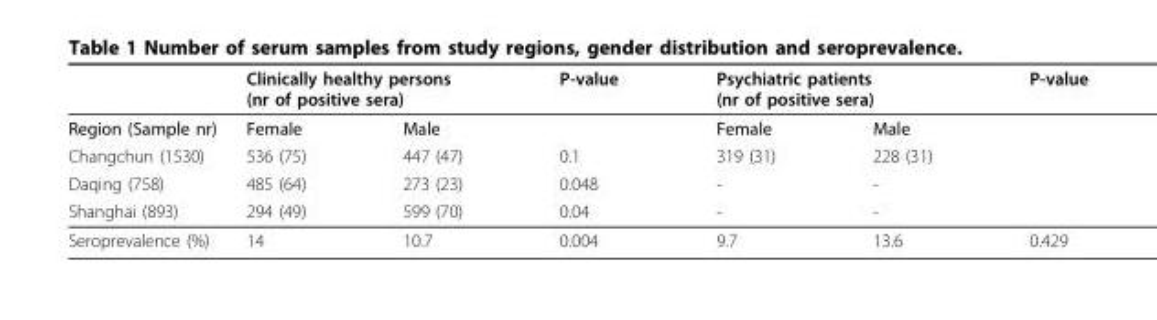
<table><thead><tr><td rowspan="2">Region (Sample nr)</td><td colspan="2">Clinically healthy persons (nr of positive sera)</td><td rowspan="2">P-value</td><td colspan="2">Psychiatric patients (nr of positive sera)</td><td rowspan="2">P-value</td></tr><tr><td>Female</td><td>Male</td><td>Female</td><td>Male</td></tr></thead><tbody><tr><td>Changchun (1530)</td><td>536 (75)</td><td>447 (47)</td><td>0.1</td><td>319 (31)</td><td>228 (31)</td><td></td></tr><tr><td>Daqing (758)</td><td>485 (64)</td><td>273 (23)</td><td>0.048</td><td>-</td><td>-</td><td></td></tr><tr><td>Shanghai (893)</td><td>294 (49)</td><td>599 (70)</td><td>0.04</td><td>-</td><td>-</td><td></td></tr><tr><td>Seroprevalence (%)</td><td>14</td><td>10.7</td><td>0.004</td><td>9.7</td><td>13.6</td><td>0.429</td></tr></tbody></table>